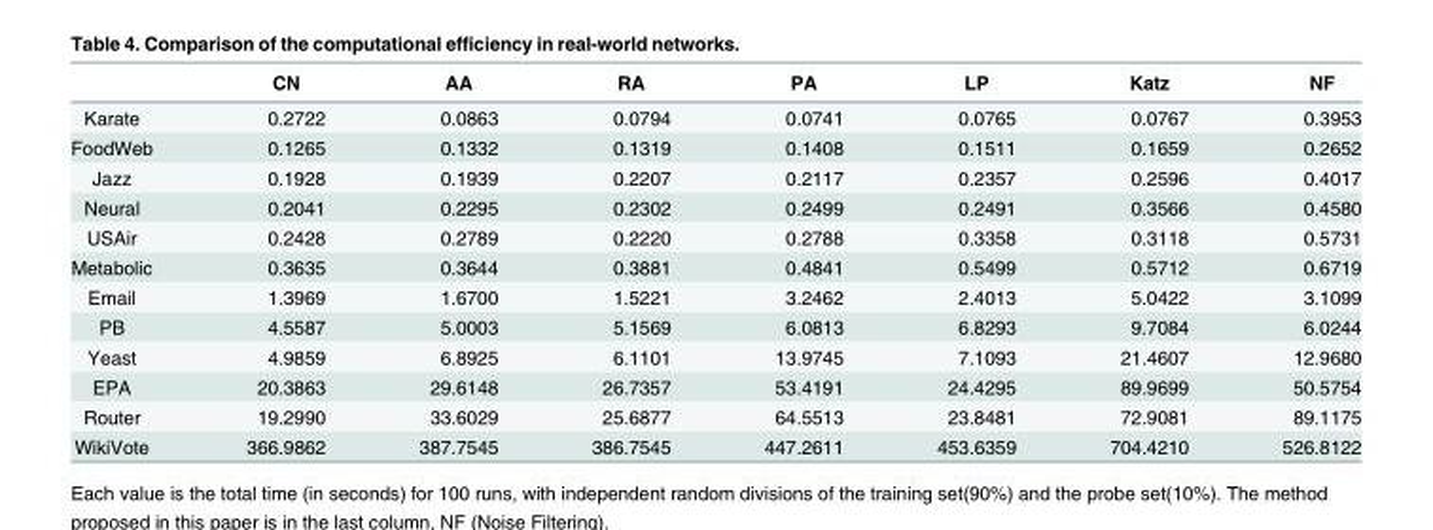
<table><thead><tr><td></td><td>CN</td><td>AA</td><td>RA</td><td>PA</td><td>LP</td><td>Katz</td><td>NF</td></tr></thead><tbody><tr><td>Karate</td><td>0.2722</td><td>0.0863</td><td>0.0794</td><td>0.0741</td><td>0.0765</td><td>0.0767</td><td>0.3953</td></tr><tr><td>FoodWeb</td><td>0.1265</td><td>0.1332</td><td>0.1319</td><td>0.1408</td><td>0.1511</td><td>0.1659</td><td>0.2652</td></tr><tr><td>Jazz</td><td>0.1928</td><td>0.1939</td><td>0.2207</td><td>0.2117</td><td>0.2357</td><td>0.2596</td><td>0.4017</td></tr><tr><td>Neural</td><td>0.2041</td><td>0.2295</td><td>0.2302</td><td>0.2499</td><td>0.2491</td><td>0.3566</td><td>0.4580</td></tr><tr><td>USAir</td><td>0.2428</td><td>0.2789</td><td>0.2220</td><td>0.2788</td><td>0.3358</td><td>0.3118</td><td>0.5731</td></tr><tr><td>Metabolic</td><td>0.3635</td><td>0.3644</td><td>0.3881</td><td>0.4841</td><td>0.5499</td><td>0.5712</td><td>0.6719</td></tr><tr><td>Email</td><td>1.3969</td><td>1.6700</td><td>1.5221</td><td>3.2462</td><td>2.4013</td><td>5.0422</td><td>3.1099</td></tr><tr><td>PB</td><td>4.5587</td><td>5.0003</td><td>5.1569</td><td>6.0813</td><td>6.8293</td><td>9.7084</td><td>6.0244</td></tr><tr><td>Yeast</td><td>4.9859</td><td>6.8925</td><td>6.1101</td><td>13.9745</td><td>7.1093</td><td>21.4607</td><td>12.9680</td></tr><tr><td>EPA</td><td>20.3863</td><td>29.6148</td><td>26.7357</td><td>53.4191</td><td>24.4295</td><td>89.9699</td><td>50.5754</td></tr><tr><td>Router</td><td>19.2990</td><td>33.6029</td><td>25.6877</td><td>64.5513</td><td>23.8481</td><td>72.9081</td><td>89.1175</td></tr><tr><td>WikiVote</td><td>366.9862</td><td>387.7545</td><td>386.7545</td><td>447.2611</td><td>453.6359</td><td>704.4210</td><td>526.8122</td></tr></tbody></table>